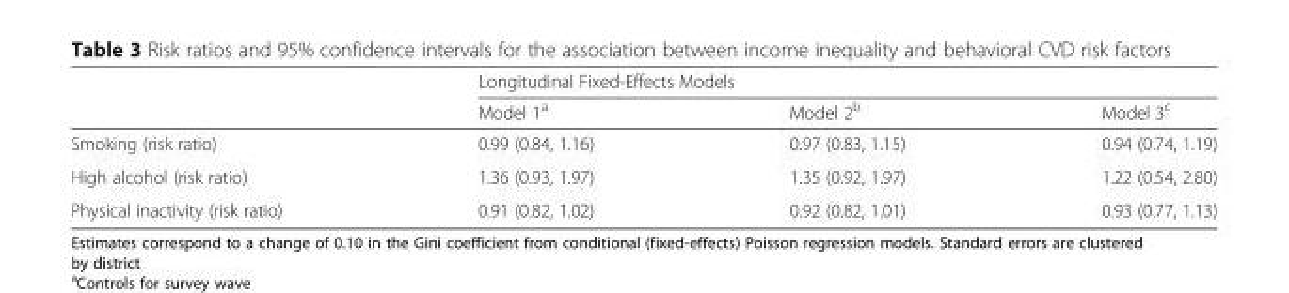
<table><thead><tr><td rowspan="2"></td><td colspan="3">Longitudinal Fixed-Effects Models</td></tr><tr><td>Model 1<sup>a</sup></td><td>Model 2<sup>b</sup></td><td>Model 3<sup>c</sup></td></tr></thead><tbody><tr><td>Smoking (risk ratio)</td><td>0.99 (0.84, 1.16)</td><td>0.97 (0.83, 1.15)</td><td>0.94 (0.74, 1.19)</td></tr><tr><td>High alcohol (risk ratio)</td><td>1.36 (0.93, 1.97)</td><td>1.35 (0.92, 1.97)</td><td>1.22 (0.54, 2.80)</td></tr><tr><td>Physical inactivity (risk ratio)</td><td>0.91 (0.82, 1.02)</td><td>0.92 (0.82, 1.01)</td><td>0.93 (0.77, 1.13)</td></tr></tbody></table>